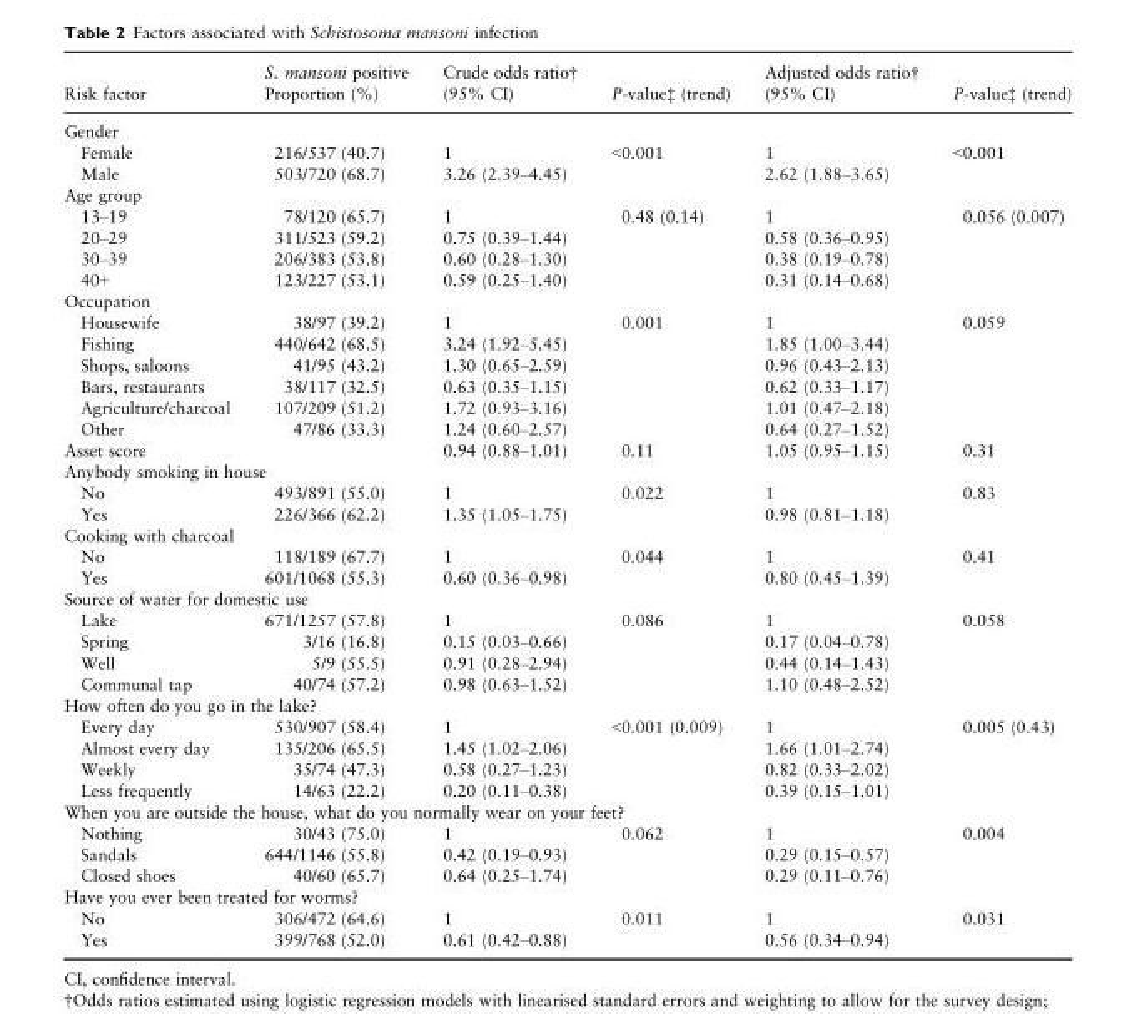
<table><thead><tr><td>Risk factor</td><td>S. mansoni positive Proportion (%)</td><td>Crude odds ratio† (95% CI)</td><td>P-value‡ (trend)</td><td>Adjusted odds ratio† (95% CI)</td><td>P-value‡ (trend)</td></tr></thead><tbody><tr><td colspan="6">Gender</td></tr><tr><td>Female</td><td>216/537 (40.7)</td><td>1</td><td rowspan="2">&lt;0.001</td><td>1</td><td rowspan="2">&lt;0.001</td></tr><tr><td>Male</td><td>503/720 (68.7)</td><td>3.26 (2.39–4.45)</td><td>2.62 (1.88–3.65)</td></tr><tr><td colspan="6">Age group</td></tr><tr><td>13–19</td><td>78/120 (65.7)</td><td>1</td><td rowspan="4">0.48 (0.14)</td><td>1</td><td rowspan="4">0.056 (0.007)</td></tr><tr><td>20–29</td><td>311/523 (59.2)</td><td>0.75 (0.39–1.44)</td><td>0.58 (0.36–0.95)</td></tr><tr><td>30–39</td><td>206/383 (53.8)</td><td>0.60 (0.28–1.30)</td><td>0.38 (0.19–0.78)</td></tr><tr><td>40+</td><td>123/227 (53.1)</td><td>0.59 (0.25–1.40)</td><td>0.31 (0.14–0.68)</td></tr><tr><td colspan="6">Occupation</td></tr><tr><td>Housewife</td><td>38/97 (39.2)</td><td>1</td><td rowspan="6">0.001</td><td>1</td><td rowspan="6">0.059</td></tr><tr><td>Fishing</td><td>440/642 (68.5)</td><td>3.24 (1.92–5.45)</td><td>1.85 (1.00–3.44)</td></tr><tr><td>Shops, saloons</td><td>41/95 (43.2)</td><td>1.30 (0.65–2.59)</td><td>0.96 (0.43–2.13)</td></tr><tr><td>Bars, restaurants</td><td>38/117 (32.5)</td><td>0.63 (0.35–1.15)</td><td>0.62 (0.33–1.17)</td></tr><tr><td>Agriculture/charcoal</td><td>107/209 (51.2)</td><td>1.72 (0.93–3.16)</td><td>1.01 (0.47–2.18)</td></tr><tr><td>Other</td><td>47/86 (33.3)</td><td>1.24 (0.60–2.57)</td><td>0.64 (0.27–1.52)</td></tr><tr><td>Asset score</td><td></td><td>0.94 (0.88–1.01)</td><td>0.11</td><td>1.05 (0.95–1.15)</td><td>0.31</td></tr><tr><td colspan="6">Anybody smoking in house</td></tr><tr><td>No</td><td>493/891 (55.0)</td><td>1</td><td rowspan="2">0.022</td><td>1</td><td rowspan="2">0.83</td></tr><tr><td>Yes</td><td>226/366 (62.2)</td><td>1.35 (1.05–1.75)</td><td>0.98 (0.81–1.18)</td></tr><tr><td colspan="6">Cooking with charcoal</td></tr><tr><td>No</td><td>118/189 (67.7)</td><td>1</td><td rowspan="2">0.044</td><td>1</td><td rowspan="2">0.41</td></tr><tr><td>Yes</td><td>601/1068 (55.3)</td><td>0.60 (0.36–0.98)</td><td>0.80 (0.45–1.39)</td></tr><tr><td colspan="6">Source of water for domestic use</td></tr><tr><td>Lake</td><td>671/1257 (57.8)</td><td>1</td><td rowspan="4">0.086</td><td>1</td><td rowspan="4">0.058</td></tr><tr><td>Spring</td><td>3/16 (16.8)</td><td>0.15 (0.03–0.66)</td><td>0.17 (0.04–0.78)</td></tr><tr><td>Well</td><td>5/9 (55.5)</td><td>0.91 (0.28–2.94)</td><td>0.44 (0.14–1.43)</td></tr><tr><td>Communal tap</td><td>40/74 (57.2)</td><td>0.98 (0.63–1.52)</td><td>1.10 (0.48–2.52)</td></tr><tr><td colspan="6">How often do you go in the lake?</td></tr><tr><td>Every day</td><td>530/907 (58.4)</td><td>1</td><td rowspan="4">&lt;0.001 (0.009)</td><td>1</td><td rowspan="4">0.005 (0.43)</td></tr><tr><td>Almost every day</td><td>135/206 (65.5)</td><td>1.45 (1.02–2.06)</td><td>1.66 (1.01–2.74)</td></tr><tr><td>Weekly</td><td>35/74 (47.3)</td><td>0.58 (0.27–1.23)</td><td>0.82 (0.33–2.02)</td></tr><tr><td>Less frequently</td><td>14/63 (22.2)</td><td>0.20 (0.11–0.38)</td><td>0.39 (0.15–1.01)</td></tr><tr><td colspan="6">When you are outside the house, what do you normally wear on your feet?</td></tr><tr><td>Nothing</td><td>30/43 (75.0)</td><td>1</td><td rowspan="3">0.062</td><td>1</td><td rowspan="3">0.004</td></tr><tr><td>Sandals</td><td>644/1146 (55.8)</td><td>0.42 (0.19–0.93)</td><td>0.29 (0.15–0.57)</td></tr><tr><td>Closed shoes</td><td>40/60 (65.7)</td><td>0.64 (0.25–1.74)</td><td>0.29 (0.11–0.76)</td></tr><tr><td colspan="6">Have you ever been treated for worms?</td></tr><tr><td>No</td><td>306/472 (64.6)</td><td>1</td><td rowspan="2">0.011</td><td>1</td><td rowspan="2">0.031</td></tr><tr><td>Yes</td><td>399/768 (52.0)</td><td>0.61 (0.42–0.88)</td><td>0.56 (0.34–0.94)</td></tr></tbody></table>